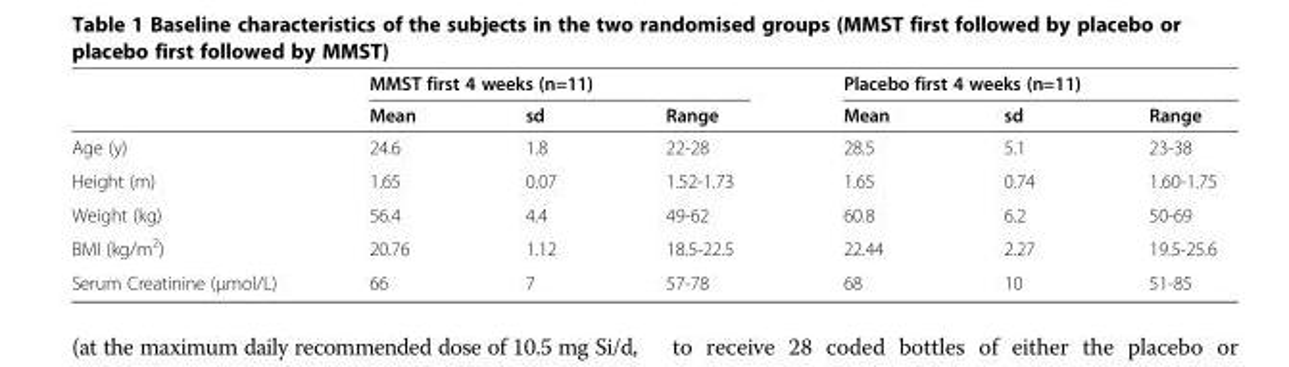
<table><thead><tr><td rowspan="2"></td><td colspan="3">MMST first 4 weeks (n=11)</td><td colspan="3">Placebo first 4 weeks (n=11)</td></tr><tr><td>Mean</td><td>sd</td><td>Range</td><td>Mean</td><td>sd</td><td>Range</td></tr></thead><tbody><tr><td>Age (y)</td><td>24.6</td><td>1.8</td><td>22-28</td><td>28.5</td><td>5.1</td><td>23-38</td></tr><tr><td>Height (m)</td><td>1.65</td><td>0.07</td><td>1.52-1.73</td><td>1.65</td><td>0.74</td><td>1.60-1.75</td></tr><tr><td>Weight (kg)</td><td>56.4</td><td>4.4</td><td>49-62</td><td>60.8</td><td>6.2</td><td>50-69</td></tr><tr><td>BMI (kg/m<sup>2</sup>)</td><td>20.76</td><td>1.12</td><td>18.5-22.5</td><td>22.44</td><td>2.27</td><td>19.5-25.6</td></tr><tr><td>Serum Creatinine (μmol/L)</td><td>66</td><td>7</td><td>57-78</td><td>68</td><td>10</td><td>51-85</td></tr></tbody></table>